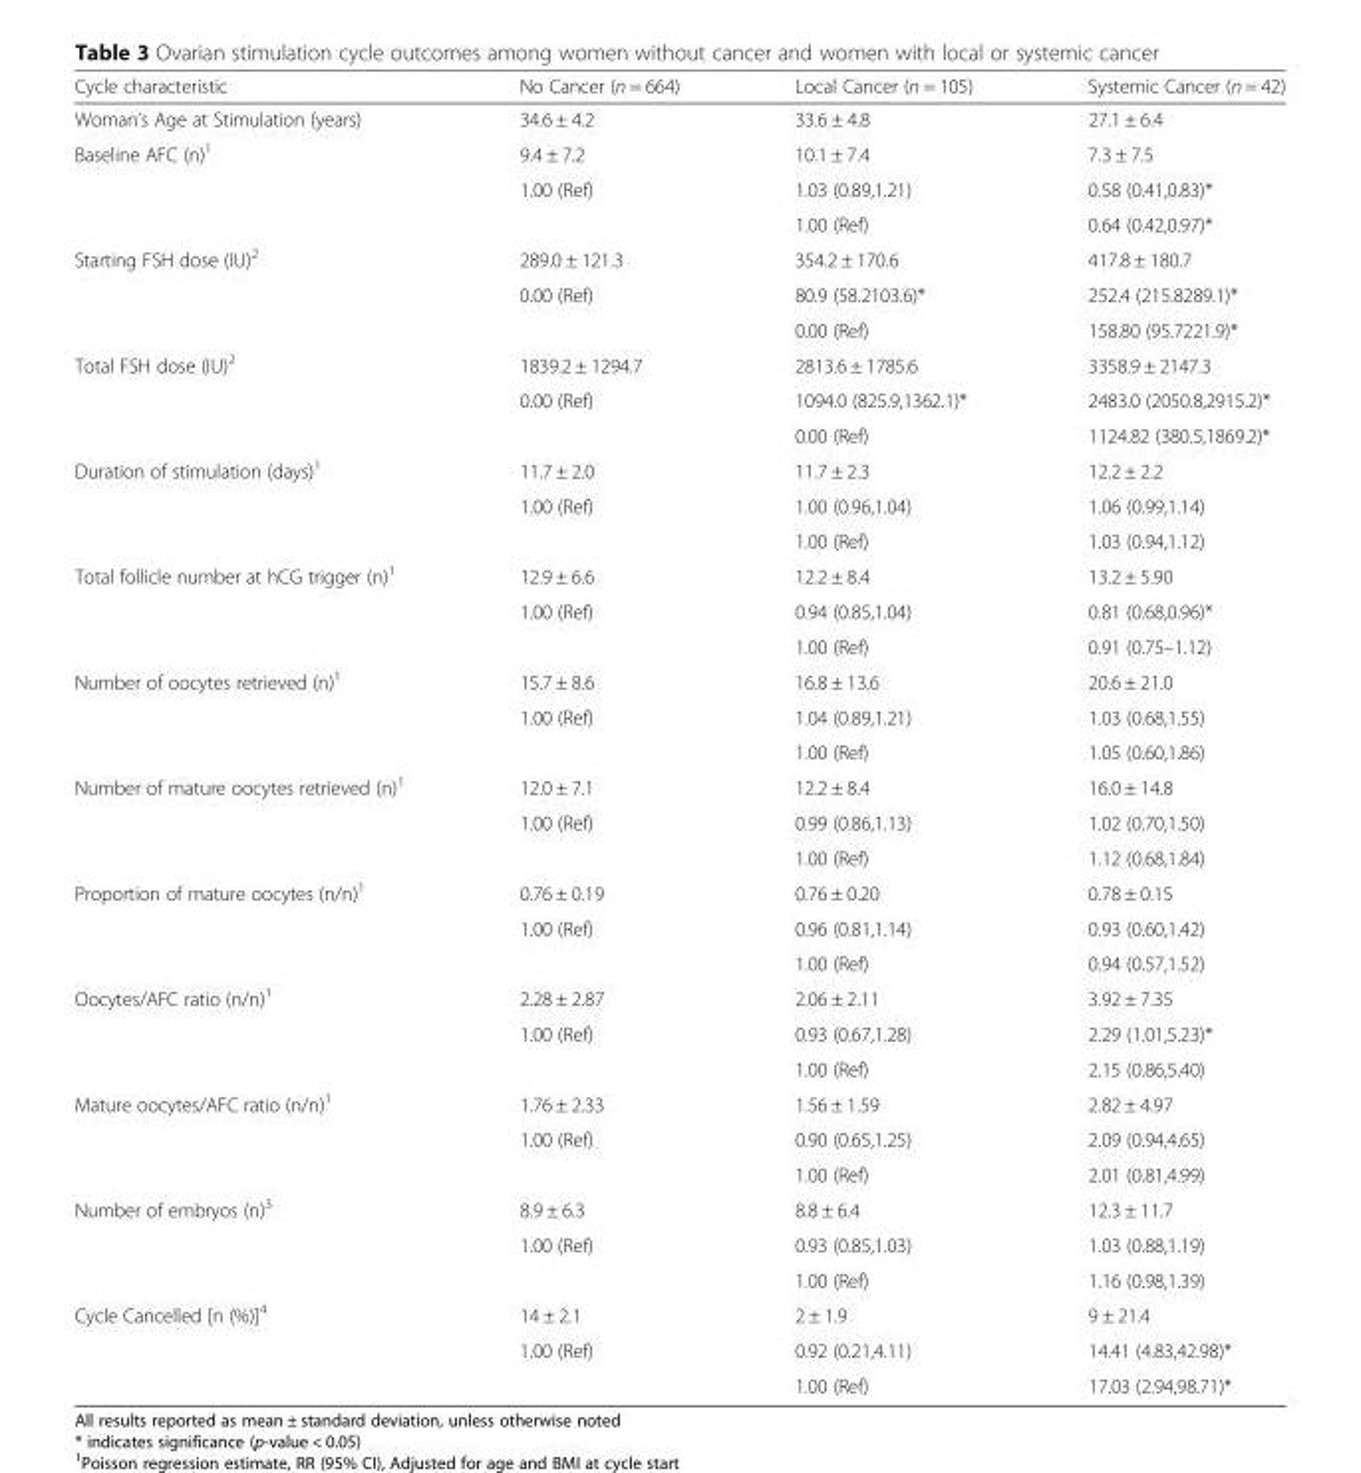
<table><thead><tr><td>Cycle characteristic</td><td>No Cancer (n = 664)</td><td>Local Cancer (n = 105)</td><td>Systemic Cancer (n = 42)</td></tr></thead><tbody><tr><td>Woman’s Age at Stimulation (years)</td><td>34.6 ± 4.2</td><td>33.6 ± 4.8</td><td>27.1 ± 6.4</td></tr><tr><td rowspan="3">Baseline AFC (n)<sup>1</sup></td><td>9.4 ± 7.2</td><td>10.1 ± 7.4</td><td>7.3 ± 7.5</td></tr><tr><td>1.00 (Ref)</td><td>1.03 (0.89,1.21)</td><td>0.58 (0.41,0.83)*</td></tr><tr><td></td><td>1.00 (Ref)</td><td>0.64 (0.42,0.97)*</td></tr><tr><td rowspan="3">Starting FSH dose (IU)<sup>2</sup></td><td>289.0 ± 121.3</td><td>354.2 ± 170.6</td><td>417.8 ± 180.7</td></tr><tr><td>0.00 (Ref)</td><td>80.9 (58.2103.6)*</td><td>252.4 (215.8289.1)*</td></tr><tr><td></td><td>0.00 (Ref)</td><td>158.80 (95.7221.9)*</td></tr><tr><td rowspan="3">Total FSH dose (IU)<sup>2</sup></td><td>1839.2 ± 1294.7</td><td>2813.6 ± 1785.6</td><td>3358.9 ± 2147.3</td></tr><tr><td>0.00 (Ref)</td><td>1094.0 (825.9,1362.1)*</td><td>2483.0 (2050.8,2915.2)*</td></tr><tr><td></td><td>0.00 (Ref)</td><td>1124.82 (380.5,1869.2)*</td></tr><tr><td rowspan="3">Duration of stimulation (days)<sup>1</sup></td><td>11.7 ± 2.0</td><td>11.7 ± 2.3</td><td>12.2 ± 2.2</td></tr><tr><td>1.00 (Ref)</td><td>1.00 (0.96,1.04)</td><td>1.06 (0.99,1.14)</td></tr><tr><td></td><td>1.00 (Ref)</td><td>1.03 (0.94,1.12)</td></tr><tr><td rowspan="3">Total follicle number at hCG trigger (n)<sup>1</sup></td><td>12.9 ± 6.6</td><td>12.2 ± 8.4</td><td>13.2 ± 5.90</td></tr><tr><td>1.00 (Ref)</td><td>0.94 (0.85,1.04)</td><td>0.81 (0.68,0.96)*</td></tr><tr><td></td><td>1.00 (Ref)</td><td>0.91 (0.75–1.12)</td></tr><tr><td rowspan="3">Number of oocytes retrieved (n)<sup>1</sup></td><td>15.7 ± 8.6</td><td>16.8 ± 13.6</td><td>20.6 ± 21.0</td></tr><tr><td>1.00 (Ref)</td><td>1.04 (0.89,1.21)</td><td>1.03 (0.68,1.55)</td></tr><tr><td></td><td>1.00 (Ref)</td><td>1.05 (0.60,1.86)</td></tr><tr><td rowspan="3">Number of mature oocytes retrieved (n)<sup>1</sup></td><td>12.0 ± 7.1</td><td>12.2 ± 8.4</td><td>16.0 ± 14.8</td></tr><tr><td>1.00 (Ref)</td><td>0.99 (0.86,1.13)</td><td>1.02 (0.70,1.50)</td></tr><tr><td></td><td>1.00 (Ref)</td><td>1.12 (0.68,1.84)</td></tr><tr><td rowspan="3">Proportion of mature oocytes (n/n)<sup>1</sup></td><td>0.76 ± 0.19</td><td>0.76 ± 0.20</td><td>0.78 ± 0.15</td></tr><tr><td>1.00 (Ref)</td><td>0.96 (0.81,1.14)</td><td>0.93 (0.60,1.42)</td></tr><tr><td></td><td>1.00 (Ref)</td><td>0.94 (0.57,1.52)</td></tr><tr><td rowspan="3">Oocytes/AFC ratio (n/n)<sup>1</sup></td><td>2.28 ± 2.87</td><td>2.06 ± 2.11</td><td>3.92 ± 7.35</td></tr><tr><td>1.00 (Ref)</td><td>0.93 (0.67,1.28)</td><td>2.29 (1.01,5.23)*</td></tr><tr><td></td><td>1.00 (Ref)</td><td>2.15 (0.86,5.40)</td></tr><tr><td rowspan="3">Mature oocytes/AFC ratio (n/n)<sup>1</sup></td><td>1.76 ± 2.33</td><td>1.56 ± 1.59</td><td>2.82 ± 4.97</td></tr><tr><td>1.00 (Ref)</td><td>0.90 (0.65,1.25)</td><td>2.09 (0.94,4.65)</td></tr><tr><td></td><td>1.00 (Ref)</td><td>2.01 (0.81,4.99)</td></tr><tr><td rowspan="3">Number of embryos (n)<sup>3</sup></td><td>8.9 ± 6.3</td><td>8.8 ± 6.4</td><td>12.3 ± 11.7</td></tr><tr><td>1.00 (Ref)</td><td>0.93 (0.85,1.03)</td><td>1.03 (0.88,1.19)</td></tr><tr><td></td><td>1.00 (Ref)</td><td>1.16 (0.98,1.39)</td></tr><tr><td rowspan="3">Cycle Cancelled [n (%)]<sup>4</sup></td><td>14 ± 2.1</td><td>2 ± 1.9</td><td>9 ± 21.4</td></tr><tr><td>1.00 (Ref)</td><td>0.92 (0.21,4.11)</td><td>14.41 (4.83,42.98)*</td></tr><tr><td></td><td>1.00 (Ref)</td><td>17.03 (2.94,98.71)*</td></tr></tbody></table>